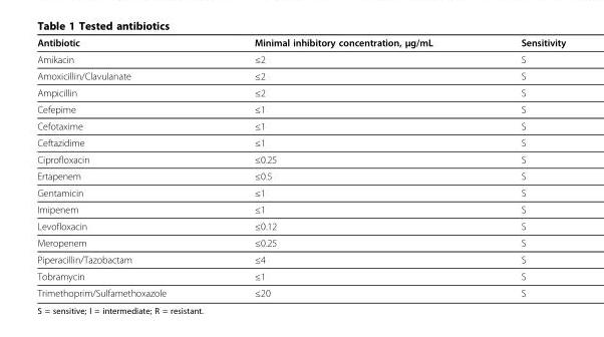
<table><thead><tr><td>Antibiotic</td><td>Minimal inhibitory concentration, μg/mL</td><td>Sensitivity</td></tr></thead><tbody><tr><td>Amikacin</td><td>≤2</td><td>S</td></tr><tr><td>Amoxicillin/Clavulanate</td><td>≤2</td><td>S</td></tr><tr><td>Ampicillin</td><td>≤2</td><td>S</td></tr><tr><td>Cefepime</td><td>≤1</td><td>S</td></tr><tr><td>Cefotaxime</td><td>≤1</td><td>S</td></tr><tr><td>Ceftazidime</td><td>≤1</td><td>S</td></tr><tr><td>Ciprofloxacin</td><td>≤0.25</td><td>S</td></tr><tr><td>Ertapenem</td><td>≤0.5</td><td>S</td></tr><tr><td>Gentamicin</td><td>≤1</td><td>S</td></tr><tr><td>Imipenem</td><td>≤1</td><td>S</td></tr><tr><td>Levofloxacin</td><td>≤0.12</td><td>S</td></tr><tr><td>Meropenem</td><td>≤0.25</td><td>S</td></tr><tr><td>Piperacillin/Tazobactam</td><td>≤4</td><td>S</td></tr><tr><td>Tobramycin</td><td>≤1</td><td>S</td></tr><tr><td>Trimethoprim/Sulfamethoxazole</td><td>≤20</td><td>S</td></tr></tbody></table>